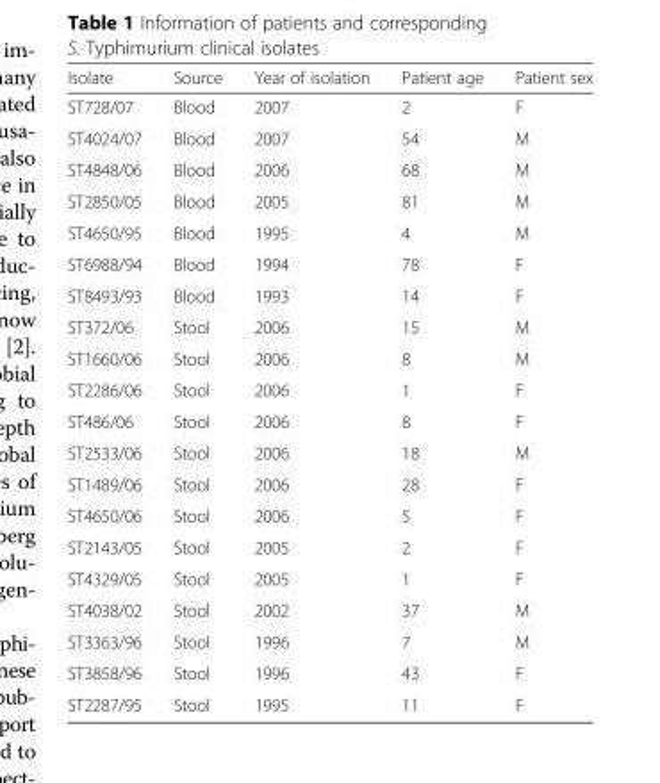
<table><thead><tr><td>Isolate</td><td>Source</td><td>Year of isolation</td><td>Patient age</td><td>Patient sex</td></tr></thead><tbody><tr><td>ST728/07</td><td>Blood</td><td>2007</td><td>2</td><td>F</td></tr><tr><td>ST4024/07</td><td>Blood</td><td>2007</td><td>54</td><td>M</td></tr><tr><td>ST4848/06</td><td>Blood</td><td>2006</td><td>68</td><td>M</td></tr><tr><td>ST2850/05</td><td>Blood</td><td>2005</td><td>81</td><td>M</td></tr><tr><td>ST4650/95</td><td>Blood</td><td>1995</td><td>4</td><td>M</td></tr><tr><td>ST6988/94</td><td>Blood</td><td>1994</td><td>78</td><td>F</td></tr><tr><td>ST8493/93</td><td>Blood</td><td>1993</td><td>14</td><td>F</td></tr><tr><td>ST372/06</td><td>Stool</td><td>2006</td><td>15</td><td>M</td></tr><tr><td>ST1660/06</td><td>Stool</td><td>2006</td><td>8</td><td>M</td></tr><tr><td>ST2286/06</td><td>Stool</td><td>2006</td><td>1</td><td>F</td></tr><tr><td>ST486/06</td><td>Stool</td><td>2006</td><td>8</td><td>F</td></tr><tr><td>ST2533/06</td><td>Stool</td><td>2006</td><td>18</td><td>M</td></tr><tr><td>ST1489/06</td><td>Stool</td><td>2006</td><td>28</td><td>F</td></tr><tr><td>ST4650/06</td><td>Stool</td><td>2006</td><td>5</td><td>F</td></tr><tr><td>ST2143/05</td><td>Stool</td><td>2005</td><td>2</td><td>F</td></tr><tr><td>ST4329/05</td><td>Stool</td><td>2005</td><td>1</td><td>F</td></tr><tr><td>ST4038/02</td><td>Stool</td><td>2002</td><td>37</td><td>M</td></tr><tr><td>ST3363/96</td><td>Stool</td><td>1996</td><td>7</td><td>M</td></tr><tr><td>ST3858/96</td><td>Stool</td><td>1996</td><td>43</td><td>F</td></tr><tr><td>ST2287/95</td><td>Stool</td><td>1995</td><td>11</td><td>F</td></tr></tbody></table>